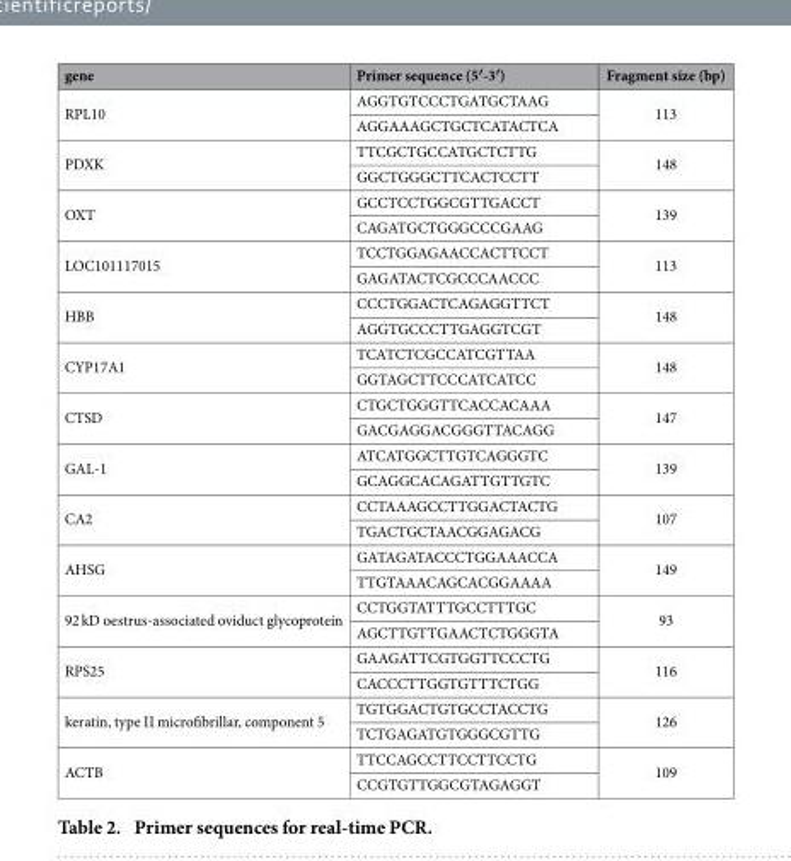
<table><thead><tr><td>gene</td><td>Primer sequence (5′-3′)</td><td>Fragment size (bp)</td></tr></thead><tbody><tr><td rowspan="2">RPL10</td><td>AGGTGTCCCTGATGCTAAG</td><td rowspan="2">113</td></tr><tr><td>AGGAAAGCTGCTCATACTCA</td></tr><tr><td rowspan="2">PDXK</td><td>TTCGCTGCCATGCTCTTG</td><td rowspan="2">148</td></tr><tr><td>GGCTGGGCTTCACTCCTT</td></tr><tr><td rowspan="2">OXT</td><td>GCCTCCTGGCGTTGACCT</td><td rowspan="2">139</td></tr><tr><td>CAGATGCTGGGCCCGAAG</td></tr><tr><td rowspan="2">LOC101117015</td><td>TCCTGGAGAACCACTTCCT</td><td rowspan="2">113</td></tr><tr><td>GAGATACTCGCCCAACCC</td></tr><tr><td rowspan="2">HBB</td><td>CCCTGGACTCAGAGGTTCT</td><td rowspan="2">148</td></tr><tr><td>AGGTGCCCTTGAGGTCGT</td></tr><tr><td rowspan="2">CYP17A1</td><td>TCATCTCGCCATCGTTAA</td><td rowspan="2">148</td></tr><tr><td>GGTAGCTTCCCATCATCC</td></tr><tr><td rowspan="2">CTSD</td><td>CTGCTGGGTTCACCACAAA</td><td rowspan="2">147</td></tr><tr><td>GACGAGGACGGGTTACAGG</td></tr><tr><td rowspan="2">GAL-1</td><td>ATCATGGCTTGTCAGGGTC</td><td rowspan="2">139</td></tr><tr><td>GCAGGCACAGATTGTTGTC</td></tr><tr><td rowspan="2">CA2</td><td>CCTAAAGCCTTGGACTACTG</td><td rowspan="2">107</td></tr><tr><td>TGACTGCTAACGGAGACG</td></tr><tr><td rowspan="2">AHSG</td><td>GATAGATACCCTGGAAACCA</td><td rowspan="2">149</td></tr><tr><td>TTGTAAACAGCACGGAAAA</td></tr><tr><td rowspan="2">92 kD oestrus-associated oviduct glycoprotein</td><td>CCTGGTATTTGCCTTTGC</td><td rowspan="2">93</td></tr><tr><td>AGCTTGTTGAACTCTGGGTA</td></tr><tr><td rowspan="2">RPS25</td><td>GAAGATTCGTGGTTCCCTG</td><td rowspan="2">116</td></tr><tr><td>CACCCTTGGTGTTTCTGG</td></tr><tr><td rowspan="2">keratin, type II microfibrillar, component 5</td><td>TGTGGACTGTGCCTACCTG</td><td rowspan="2">126</td></tr><tr><td>TCTGAGATGTGGGCGTTG</td></tr><tr><td rowspan="2">ACTB</td><td>TTCCAGCCTTCCTTCCTG</td><td rowspan="2">109</td></tr><tr><td>CCGTGTTGGCGTAGAGGT</td></tr></tbody></table>